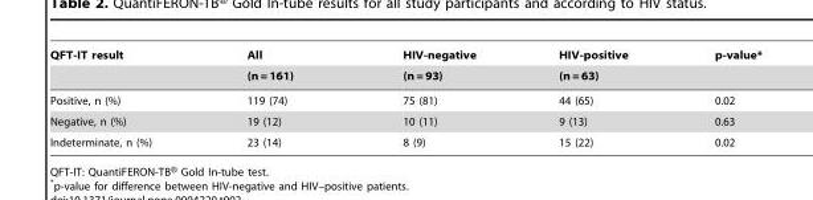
<table><thead><tr><td rowspan="2">QFT-IT result</td><td rowspan="2">All (n = 161)</td><td rowspan="2">HIV-negative (n = 93)</td><td rowspan="2">HIV-positive (n = 63)</td><td rowspan="2">p-value*</td></tr><tr></tr></thead><tbody><tr><td>Positive, n (%)</td><td>119 (74)</td><td>75 (81)</td><td>44 (65)</td><td>0.02</td></tr><tr><td>Negative, n (%)</td><td>19 (12)</td><td>10 (11)</td><td>9 (13)</td><td>0.63</td></tr><tr><td>Indeterminate, n (%)</td><td>23 (14)</td><td>8 (9)</td><td>15 (22)</td><td>0.02</td></tr></tbody></table>